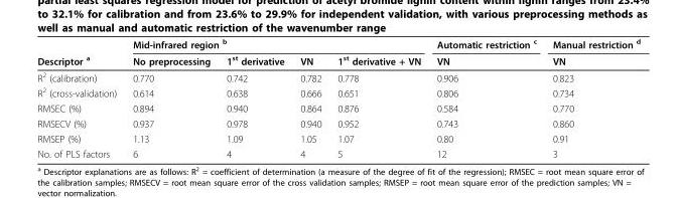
<table><thead><tr><td rowspan="2">Descriptor <sup>a</sup></td><td colspan="4">Mid-infrared region <sup>b</sup></td><td rowspan="2">Automatic restriction <sup>c</sup> VN</td><td rowspan="2">Manual restriction <sup>d</sup> VN</td></tr><tr><td>No preprocessing</td><td>1<sup>st</sup> derivative</td><td>VN</td><td>1<sup>st</sup> derivative + VN</td></tr></thead><tbody><tr><td>R<sup>2</sup> (calibration)</td><td>0.770</td><td>0.742</td><td>0.782</td><td>0.778</td><td>0.906</td><td>0.823</td></tr><tr><td>R<sup>2</sup> (cross-validation)</td><td>0.614</td><td>0.638</td><td>0.666</td><td>0.651</td><td>0.806</td><td>0.734</td></tr><tr><td>RMSEC (%)</td><td>0.894</td><td>0.940</td><td>0.864</td><td>0.876</td><td>0.584</td><td>0.770</td></tr><tr><td>RMSECV (%)</td><td>0.937</td><td>0.978</td><td>0.940</td><td>0.952</td><td>0.743</td><td>0.860</td></tr><tr><td>RMSEP (%)</td><td>1.13</td><td>1.09</td><td>1.05</td><td>1.07</td><td>0.80</td><td>0.91</td></tr><tr><td>No. of PLS factors</td><td>6</td><td>4</td><td>4</td><td>5</td><td>12</td><td>3</td></tr></tbody></table>